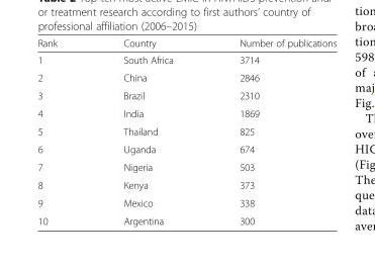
<table><thead><tr><td>Rank</td><td>Country</td><td>Number of publications</td></tr></thead><tbody><tr><td>1</td><td>South Africa</td><td>3714</td></tr><tr><td>2</td><td>China</td><td>2846</td></tr><tr><td>3</td><td>Brazil</td><td>2310</td></tr><tr><td>4</td><td>India</td><td>1869</td></tr><tr><td>5</td><td>Thailand</td><td>825</td></tr><tr><td>6</td><td>Uganda</td><td>674</td></tr><tr><td>7</td><td>Nigeria</td><td>503</td></tr><tr><td>8</td><td>Kenya</td><td>373</td></tr><tr><td>9</td><td>Mexico</td><td>338</td></tr><tr><td>10</td><td>Argentina</td><td>300</td></tr></tbody></table>